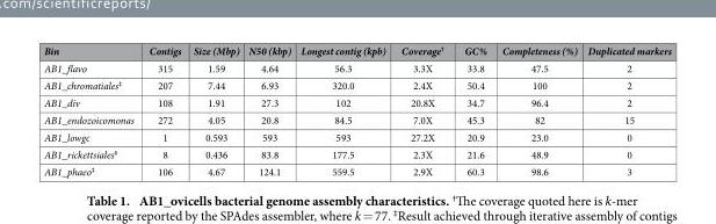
<table><thead><tr><td>Bin</td><td>Contigs</td><td>Size (Mbp)</td><td>N50 (kbp)</td><td>Longest contig (kpb)</td><td>Coverage†</td><td>GC%</td><td>Completeness (%)</td><td>Duplicated markers</td></tr></thead><tbody><tr><td>AB1_flavo</td><td>315</td><td>1.59</td><td>4.64</td><td>56.3</td><td>3.3X</td><td>33.8</td><td>47.5</td><td>2</td></tr><tr><td>AB1_chromatiales‡</td><td>207</td><td>7.44</td><td>6.93</td><td>320.0</td><td>2.4X</td><td>50.4</td><td>100</td><td>2</td></tr><tr><td>AB1_div</td><td>108</td><td>1.91</td><td>27.3</td><td>102</td><td>20.8X</td><td>34.7</td><td>96.4</td><td>2</td></tr><tr><td>AB1_endozoicomonas</td><td>272</td><td>4.05</td><td>20.8</td><td>84.5</td><td>7.0X</td><td>45.3</td><td>82</td><td>15</td></tr><tr><td>AB1_lowgc</td><td>1</td><td>0.593</td><td>593</td><td>593</td><td>27.2X</td><td>20.9</td><td>23.0</td><td>0</td></tr><tr><td>AB1_rickettsiales‡</td><td>8</td><td>0.436</td><td>83.8</td><td>177.5</td><td>2.3X</td><td>21.6</td><td>48.9</td><td>0</td></tr><tr><td>AB1_phaeo‡</td><td>106</td><td>4.67</td><td>124.1</td><td>559.5</td><td>2.9X</td><td>60.3</td><td>98.6</td><td>3</td></tr></tbody></table>